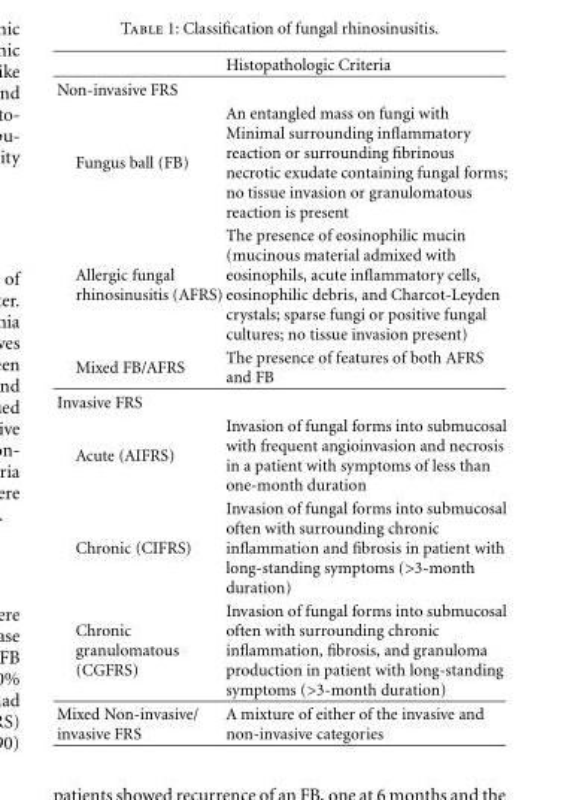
<table><thead><tr><td></td><td>Histopathologic Criteria</td></tr></thead><tbody><tr><td colspan="2">Non-invasive FRS</td></tr><tr><td>Fungus ball (FB)</td><td>An entangled mass on fungi with Minimal surrounding inflammatory reaction or surrounding fibrinous necrotic exudate containing fungal forms; no tissue invasion or granulomatous reaction is present</td></tr><tr><td>Allergic fungal rhinosinusitis (AFRS)</td><td>The presence of eosinophilic mucin (mucinous material admixed with eosinophils, acute inflammatory cells, eosinophilic debris, and Charcot-Leyden crystals; sparse fungi or positive fungal cultures; no tissue invasion present)</td></tr><tr><td>Mixed FB/AFRS</td><td>The presence of features of both AFRS and FB</td></tr><tr><td colspan="2">Invasive FRS</td></tr><tr><td>Acute (AIFRS)</td><td>Invasion of fungal forms into submucosal with frequent angioinvasion and necrosis in a patient with symptoms of less than one-month duration</td></tr><tr><td>Chronic (CIFRS)</td><td>Invasion of fungal forms into submucosal often with surrounding chronic inflammation and fibrosis in patient with long-standing symptoms (&gt;3-month duration)</td></tr><tr><td>Chronic granulomatous (CGFRS)</td><td>Invasion of fungal forms into submucosal often with surrounding chronic inflammation, fibrosis, and granuloma production in patient with long-standing symptoms (&gt;3-month duration)</td></tr><tr><td>Mixed Non-invasive/ invasive FRS</td><td>A mixture of either of the invasive and non-invasive categories</td></tr></tbody></table>